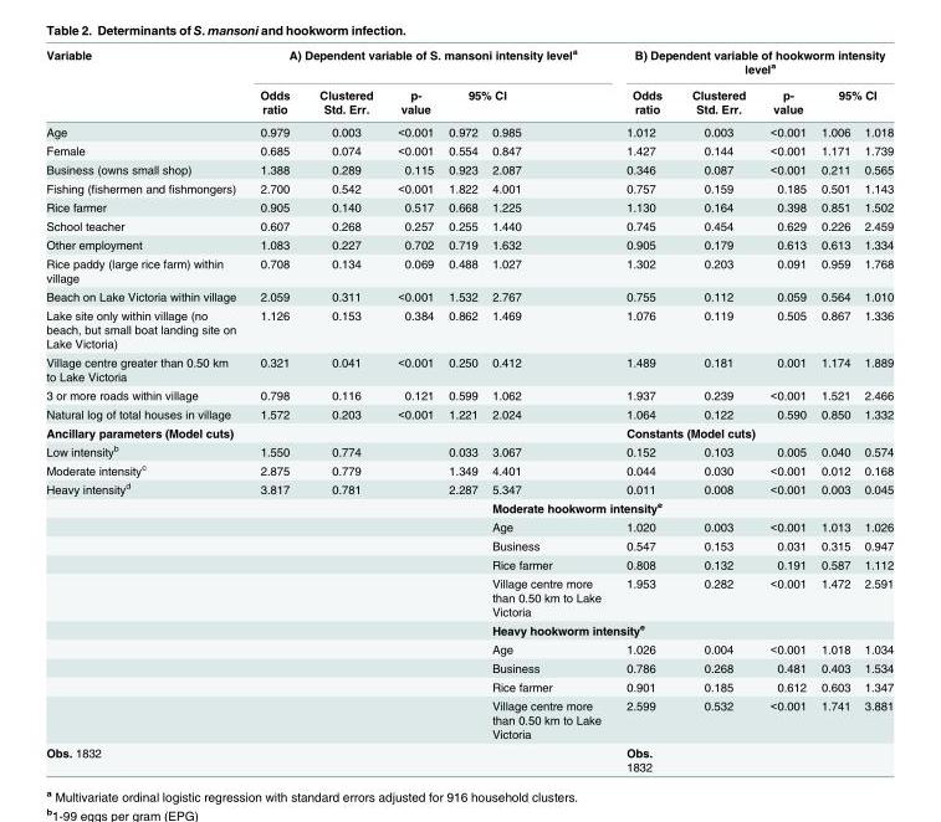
<table><thead><tr><td rowspan="3">Variable Age</td><td colspan="5">A) Dependent variable of S. mansoni intensity level<sup>a</sup></td><td colspan="5">B) Dependent variable of hookworm intensity level<sup>a</sup></td></tr><tr><td rowspan="2">Odds ratio 0.979</td><td rowspan="2">Clustered Std. Err. 0.003</td><td rowspan="2">p- value &lt;0.001</td><td colspan="2">95% CI</td><td rowspan="2">Odds ratio 1.012</td><td rowspan="2">Clustered Std. Err. 0.003</td><td rowspan="2">p- value &lt;0.001</td><td colspan="2">95% CI</td></tr><tr><td>0.972</td><td>0.985</td><td>1.006</td><td>1.018</td></tr></thead><tbody><tr><td>Female</td><td>0.685</td><td>0.074</td><td>&lt;0.001</td><td>0.554</td><td>0.847</td><td>1.427</td><td>0.144</td><td>&lt;0.001</td><td>1.171</td><td>1.739</td></tr><tr><td>Business (owns small shop)</td><td>1.388</td><td>0.289</td><td>0.115</td><td>0.923</td><td>2.087</td><td>0.346</td><td>0.087</td><td>&lt;0.001</td><td>0.211</td><td>0.565</td></tr><tr><td>Fishing (fishermen and fishmongers)</td><td>2.700</td><td>0.542</td><td>&lt;0.001</td><td>1.822</td><td>4.001</td><td>0.757</td><td>0.159</td><td>0.185</td><td>0.501</td><td>1.143</td></tr><tr><td>Rice farmer</td><td>0.905</td><td>0.140</td><td>0.517</td><td>0.668</td><td>1.225</td><td>1.130</td><td>0.164</td><td>0.398</td><td>0.851</td><td>1.502</td></tr><tr><td>School teacher</td><td>0.607</td><td>0.268</td><td>0.257</td><td>0.255</td><td>1.440</td><td>0.745</td><td>0.454</td><td>0.629</td><td>0.226</td><td>2.459</td></tr><tr><td>Other employment</td><td>1.083</td><td>0.227</td><td>0.702</td><td>0.719</td><td>1.632</td><td>0.905</td><td>0.179</td><td>0.613</td><td>0.613</td><td>1.334</td></tr><tr><td>Rice paddy (large rice farm) within village</td><td>0.708</td><td>0.134</td><td>0.069</td><td>0.488</td><td>1.027</td><td>1.302</td><td>0.203</td><td>0.091</td><td>0.959</td><td>1.768</td></tr><tr><td>Beach on Lake Victoria within village</td><td>2.059</td><td>0.311</td><td>&lt;0.001</td><td>1.532</td><td>2.767</td><td>0.755</td><td>0.112</td><td>0.059</td><td>0.564</td><td>1.010</td></tr><tr><td>Lake site only within village (no beach, but small boat landing site on Lake Victoria)</td><td>1.126</td><td>0.153</td><td>0.384</td><td>0.862</td><td>1.469</td><td>1.076</td><td>0.119</td><td>0.505</td><td>0.867</td><td>1.336</td></tr><tr><td>Village centre greater than 0.50 km to Lake Victoria</td><td>0.321</td><td>0.041</td><td>&lt;0.001</td><td>0.250</td><td>0.412</td><td>1.489</td><td>0.181</td><td>0.001</td><td>1.174</td><td>1.889</td></tr><tr><td>3 or more roads within village</td><td>0.798</td><td>0.116</td><td>0.121</td><td>0.599</td><td>1.062</td><td>1.937</td><td>0.239</td><td>&lt;0.001</td><td>1.521</td><td>2.466</td></tr><tr><td>Natural log of total houses in village</td><td>1.572</td><td>0.203</td><td>&lt;0.001</td><td>1.221</td><td>2.024</td><td>1.064</td><td>0.122</td><td>0.590</td><td>0.850</td><td>1.332</td></tr><tr><td colspan="6">Ancillary parameters (Model cuts)</td><td colspan="5">Constants (Model cuts)</td></tr><tr><td>Low intensity<sup>b</sup></td><td>1.550</td><td>0.774</td><td></td><td>0.033</td><td>3.067</td><td>0.152</td><td>0.103</td><td>0.005</td><td>0.040</td><td>0.574</td></tr><tr><td>Moderate intensity<sup>c</sup></td><td>2.875</td><td>0.779</td><td></td><td>1.349</td><td>4.401</td><td>0.044</td><td>0.030</td><td>&lt;0.001</td><td>0.012</td><td>0.168</td></tr><tr><td rowspan="11">Heavy intensity<sup>d</sup></td><td>3.817</td><td>0.781</td><td></td><td>2.287</td><td>5.347</td><td>0.011</td><td>0.008</td><td>&lt;0.001</td><td>0.003</td><td>0.045</td></tr><tr><td></td><td></td><td></td><td></td><td colspan="3">Moderate hookworm intensity<sup>e</sup></td><td></td><td></td><td></td></tr><tr><td></td><td></td><td></td><td></td><td>Age</td><td>1.020</td><td>0.003</td><td>&lt;0.001</td><td>1.013</td><td>1.026</td></tr><tr><td></td><td></td><td></td><td></td><td>Business</td><td>0.547</td><td>0.153</td><td>0.031</td><td>0.315</td><td>0.947</td></tr><tr><td></td><td></td><td></td><td></td><td>Rice farmer</td><td>0.808</td><td>0.132</td><td>0.191</td><td>0.587</td><td>1.112</td></tr><tr><td></td><td></td><td></td><td></td><td>Village centre more than 0.50 km to Lake Victoria</td><td>1.953</td><td>0.282</td><td>&lt;0.001</td><td>1.472</td><td>2.591</td></tr><tr><td></td><td></td><td></td><td></td><td colspan="3">Heavy hookworm intensity<sup>e</sup></td><td></td><td></td><td></td></tr><tr><td></td><td></td><td></td><td></td><td>Age</td><td>1.026</td><td>0.004</td><td>&lt;0.001</td><td>1.018</td><td>1.034</td></tr><tr><td></td><td></td><td></td><td></td><td>Business</td><td>0.786</td><td>0.268</td><td>0.481</td><td>0.403</td><td>1.534</td></tr><tr><td></td><td></td><td></td><td></td><td>Rice farmer</td><td>0.901</td><td>0.185</td><td>0.612</td><td>0.603</td><td>1.347</td></tr><tr><td></td><td></td><td></td><td></td><td>Village centre more than 0.50 km to Lake Victoria</td><td>2.599</td><td>0.532</td><td>&lt;0.001</td><td>1.741</td><td>3.881</td></tr><tr><td>Obs. 1832</td><td></td><td></td><td></td><td></td><td></td><td>Obs. 1832</td><td></td><td></td><td></td><td></td></tr></tbody></table>